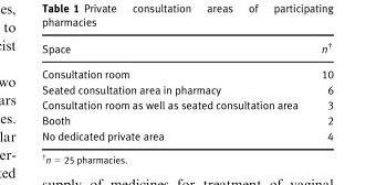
<table><thead><tr><td>Space</td><td>n†</td></tr></thead><tbody><tr><td>Consultation room</td><td>10</td></tr><tr><td>Seated consultation area in pharmacy</td><td>6</td></tr><tr><td>Consultation room as well as seated consultation area</td><td>3</td></tr><tr><td>Booth</td><td>2</td></tr><tr><td>No dedicated private area</td><td>4</td></tr></tbody></table>